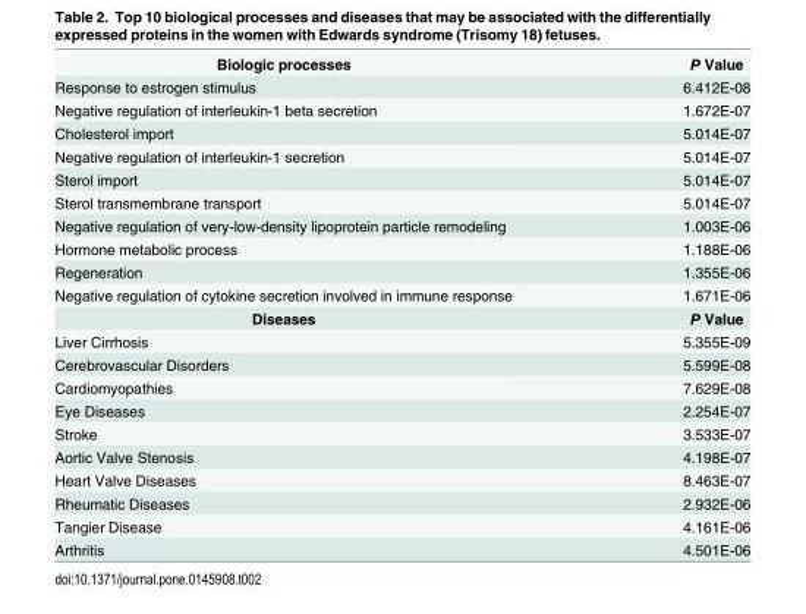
<table><tbody><tr><td>Biologic processes</td><td>P Value</td></tr><tr><td>Response to estrogen stimulus</td><td>6.412E-08</td></tr><tr><td>Negative regulation of interleukin-1 beta secretion</td><td>1.672E-07</td></tr><tr><td>Cholesterol import</td><td>5.014E-07</td></tr><tr><td>Negative regulation of interleukin-1 secretion</td><td>5.014E-07</td></tr><tr><td>Sterol import</td><td>5.014E-07</td></tr><tr><td>Sterol transmembrane transport</td><td>5.014E-07</td></tr><tr><td>Negative regulation of very-low-density lipoprotein particle remodeling</td><td>1.003E-06</td></tr><tr><td>Hormone metabolic process</td><td>1.188E-06</td></tr><tr><td>Regeneration</td><td>1.355E-06</td></tr><tr><td>Negative regulation of cytokine secretion involved in immune response</td><td>1.671E-06</td></tr><tr><td>Diseases</td><td>P Value</td></tr><tr><td>Liver Cirrhosis</td><td>5.355E-09</td></tr><tr><td>Cerebrovascular Disorders</td><td>5.599E-08</td></tr><tr><td>Cardiomyopathies</td><td>7.629E-08</td></tr><tr><td>Eye Diseases</td><td>2.254E-07</td></tr><tr><td>Stroke</td><td>3.533E-07</td></tr><tr><td>Aortic Valve Stenosis</td><td>4.198E-07</td></tr><tr><td>Heart Valve Diseases</td><td>8.463E-07</td></tr><tr><td>Rheumatic Diseases</td><td>2.932E-06</td></tr><tr><td>Tangier Disease</td><td>4.161E-06</td></tr><tr><td>Arthritis</td><td>4.501E-06</td></tr></tbody></table>